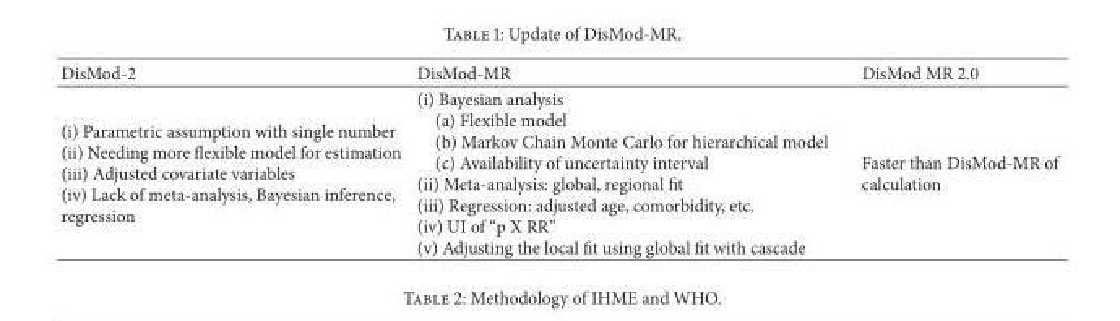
<table><thead><tr><td>DisMod-2</td><td>DisMod-MR</td><td>DisMod MR 2.0</td></tr></thead><tbody><tr><td>(i) Parametric assumption with single number (ii) Needing more flexible model for estimation (iii) Adjusted covariate variables (iv) Lack of meta-analysis, Bayesian inference, regression</td><td>(i) Bayesian analysis (a) Flexible model (b) Markov Chain Monte Carlo for hierarchical model (c) Availability of uncertainty interval (ii) Meta-analysis: global, regional fit (iii) Regression: adjusted age, comorbidity, etc. (iv) UI of “p X RR” (v) Adjusting the local fit using global fit with cascade</td><td>Faster than DisMod-MR of calculation</td></tr></tbody></table>